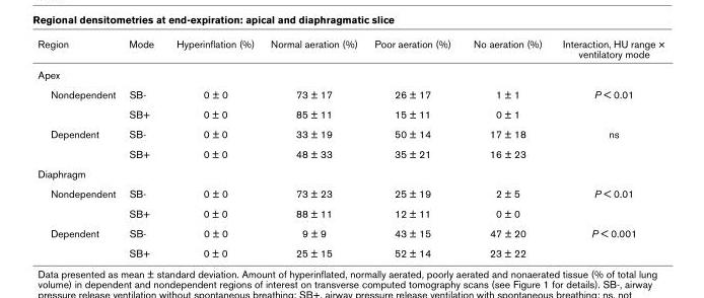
<table><thead><tr><td>Region</td><td>Mode</td><td>Hyperinflation (%)</td><td>Normal aeration (%)</td><td>Poor aeration (%)</td><td>No aeration (%)</td><td>Interaction, HU range × ventilatory mode</td></tr></thead><tbody><tr><td colspan="7">Apex</td></tr><tr><td rowspan="2">Nondependent</td><td>SB-</td><td>0 ± 0</td><td>73 ± 17</td><td>26 ± 17</td><td>1 ± 1</td><td>P &lt; 0.01</td></tr><tr><td>SB+</td><td>0 ± 0</td><td>85 ± 11</td><td>15 ± 11</td><td>0 ± 1</td><td></td></tr><tr><td rowspan="2">Dependent</td><td>SB-</td><td>0 ± 0</td><td>33 ± 19</td><td>50 ± 14</td><td>17 ± 18</td><td>ns</td></tr><tr><td>SB+</td><td>0 ± 0</td><td>48 ± 33</td><td>35 ± 21</td><td>16 ± 23</td><td></td></tr><tr><td colspan="7">Diaphragm</td></tr><tr><td rowspan="2">Nondependent</td><td>SB-</td><td>0 ± 0</td><td>73 ± 23</td><td>25 ± 19</td><td>2 ± 5</td><td>P &lt; 0.01</td></tr><tr><td>SB+</td><td>0 ± 0</td><td>88 ± 11</td><td>12 ± 11</td><td>0 ± 0</td><td></td></tr><tr><td rowspan="2">Dependent</td><td>SB-</td><td>0 ± 0</td><td>9 ± 9</td><td>43 ± 15</td><td>47 ± 20</td><td>P &lt; 0.001</td></tr><tr><td>SB+</td><td>0 ± 0</td><td>25 ± 15</td><td>52 ± 14</td><td>23 ± 22</td><td></td></tr></tbody></table>